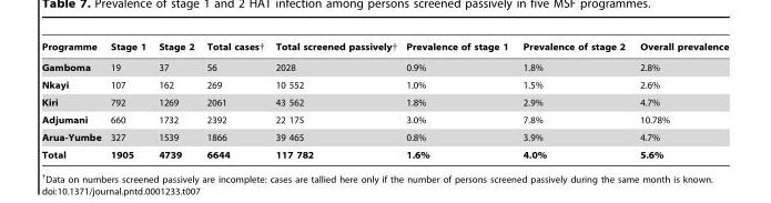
<table><thead><tr><td>Programme</td><td>Stage 1</td><td>Stage 2</td><td>Total cases†</td><td>Total screened passively†</td><td>Prevalence of stage 1</td><td>Prevalence of stage 2</td><td>Overall prevalence</td></tr></thead><tbody><tr><td>Gamboma</td><td>19</td><td>37</td><td>56</td><td>2028</td><td>0.9%</td><td>1.8%</td><td>2.8%</td></tr><tr><td>Nkayi</td><td>107</td><td>162</td><td>269</td><td>10 552</td><td>1.0%</td><td>1.5%</td><td>2.6%</td></tr><tr><td>Kiri</td><td>792</td><td>1269</td><td>2061</td><td>43 562</td><td>1.8%</td><td>2.9%</td><td>4.7%</td></tr><tr><td>Adjumani</td><td>660</td><td>1732</td><td>2392</td><td>22 175</td><td>3.0%</td><td>7.8%</td><td>10.78%</td></tr><tr><td>Arua-Yumbe</td><td>327</td><td>1539</td><td>1866</td><td>39 465</td><td>0.8%</td><td>3.9%</td><td>4.7%</td></tr><tr><td>Total</td><td>1905</td><td>4739</td><td>6644</td><td>117 782</td><td>1.6%</td><td>4.0%</td><td>5.6%</td></tr></tbody></table>